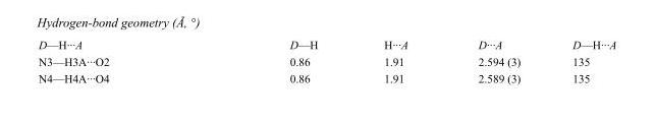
<table><tbody><tr><td>D—H···A</td><td>D—H</td><td>H···A</td><td>D···A</td><td>D—H···A</td></tr><tr><td>N3—H3A···O2</td><td>0.86</td><td>1.91</td><td>2.594 (3)</td><td>135</td></tr><tr><td>N4—H4A···O4</td><td>0.86</td><td>1.91</td><td>2.589 (3)</td><td>135</td></tr></tbody></table>